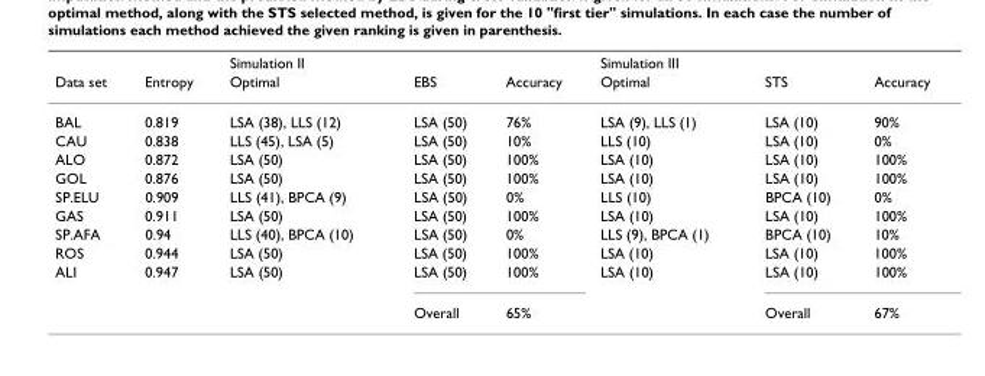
<table><thead><tr><td rowspan="2">Data set</td><td rowspan="2">Entropy</td><td colspan="3">Simulation II</td><td colspan="3">Simulation III</td></tr><tr><td>Optimal</td><td>EBS</td><td>Accuracy</td><td>Optimal</td><td>STS</td><td>Accuracy</td></tr></thead><tbody><tr><td>BAL</td><td>0.819</td><td>LSA (38), LLS (12)</td><td>LSA (50)</td><td>76%</td><td>LSA (9), LLS (1)</td><td>LSA (10)</td><td>90%</td></tr><tr><td>CAU</td><td>0.838</td><td>LLS (45), LSA (5)</td><td>LSA (50)</td><td>10%</td><td>LLS (10)</td><td>LSA (10)</td><td>0%</td></tr><tr><td>ALO</td><td>0.872</td><td>LSA (50)</td><td>LSA (50)</td><td>100%</td><td>LSA (10)</td><td>LSA (10)</td><td>100%</td></tr><tr><td>GOL</td><td>0.876</td><td>LSA (50)</td><td>LSA (50)</td><td>100%</td><td>LSA (10)</td><td>LSA (10)</td><td>100%</td></tr><tr><td>SP.ELU</td><td>0.909</td><td>LLS (41), BPCA (9)</td><td>LSA (50)</td><td>0%</td><td>LLS (10)</td><td>BPCA (10)</td><td>0%</td></tr><tr><td>GAS</td><td>0.911</td><td>LSA (50)</td><td>LSA (50)</td><td>100%</td><td>LSA (10)</td><td>LSA (10)</td><td>100%</td></tr><tr><td>SP.AFA</td><td>0.94</td><td>LLS (40), BPCA (10)</td><td>LSA (50)</td><td>0%</td><td>LLS (9), BPCA (1)</td><td>BPCA (10)</td><td>10%</td></tr><tr><td>ROS</td><td>0.944</td><td>LSA (50)</td><td>LSA (50)</td><td>100%</td><td>LSA (10)</td><td>LSA (10)</td><td>100%</td></tr><tr><td rowspan="2">ALI</td><td>0.947</td><td>LSA (50)</td><td>LSA (50)</td><td>100%</td><td>LSA (10)</td><td>LSA (10)</td><td>100%</td></tr><tr><td></td><td></td><td>Overall</td><td>65%</td><td></td><td>Overall</td><td>67%</td></tr></tbody></table>